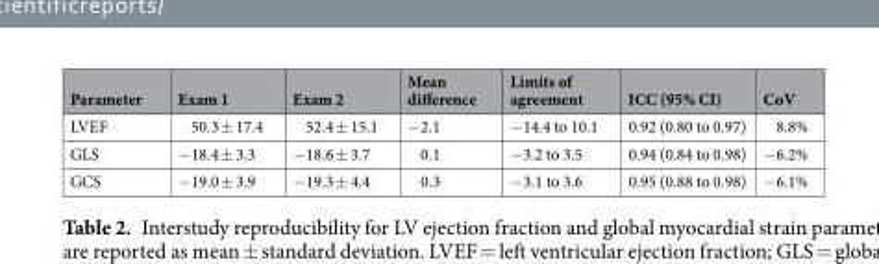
<table><thead><tr><td>Parameter</td><td>Exam 1</td><td>Exam 2</td><td>Mean difference</td><td>Limits of agreement</td><td>ICC (95% CI)</td><td>CoV</td></tr></thead><tbody><tr><td>LVEF</td><td>50.3 ± 17.4</td><td>52.4 ± 15.1</td><td>−2.1</td><td>−14.4 to 10.1</td><td>0.92 (0.80 to 0.97)</td><td>8.8%</td></tr><tr><td>GLS</td><td>−18.4 ± 3.3</td><td>−18.6 ± 3.7</td><td>0.1</td><td>−3.2 to 3.5</td><td>0.94 (0.84 to 0.98)</td><td>−6.2%</td></tr><tr><td>GCS</td><td>−19.0 ± 3.9</td><td>−19.3 ± 4.4</td><td>0.3</td><td>−3.1 to 3.6</td><td>0.95 (0.88 to 0.98)</td><td>−6.1%</td></tr></tbody></table>